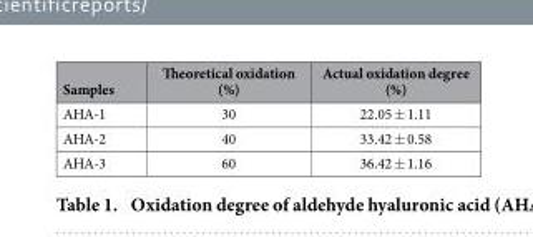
<table><thead><tr><td>Samples</td><td>Theoretical oxidation (%)</td><td>Actual oxidation degree (%)</td></tr></thead><tbody><tr><td>AHA-1</td><td>30</td><td>22.05 ± 1.11</td></tr><tr><td>AHA-2</td><td>40</td><td>33.42 ± 0.58</td></tr><tr><td>AHA-3</td><td>60</td><td>36.42 ± 1.16</td></tr></tbody></table>